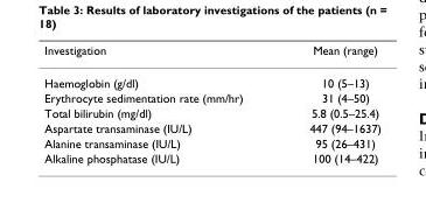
<table><thead><tr><td>Investigation</td><td>Mean (range)</td></tr></thead><tbody><tr><td>Haemoglobin (g/dl)</td><td>10 (5–13)</td></tr><tr><td>Erythrocyte sedimentation rate (mm/hr)</td><td>31 (4–50)</td></tr><tr><td>Total bilirubin (mg/dl)</td><td>5.8 (0.5–25.4)</td></tr><tr><td>Aspartate transaminase (IU/L)</td><td>447 (94–1637)</td></tr><tr><td>Alanine transaminase (IU/L)</td><td>95 (26–431)</td></tr><tr><td>Alkaline phosphatase (IU/L)</td><td>100 (14–422)</td></tr></tbody></table>